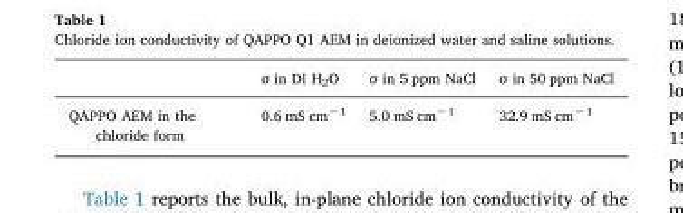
<table><thead><tr><td></td><td>σ in DI H<sub>2</sub>O</td><td>σ in 5 ppm NaCl</td><td>σ in 50 ppm NaCl</td></tr></thead><tbody><tr><td>QAPPO AEM in the chloride form</td><td>0.6 mS cm<sup>−1</sup></td><td>5.0 mS cm<sup>−1</sup></td><td>32.9 mS cm<sup>−1</sup></td></tr></tbody></table>